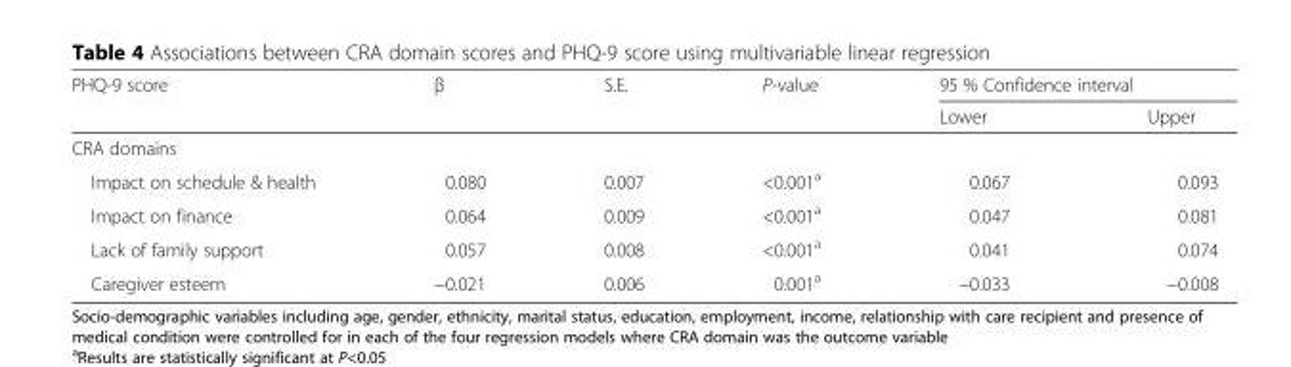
<table><thead><tr><td rowspan="2">PHQ-9 score</td><td rowspan="2">β</td><td rowspan="2">S.E.</td><td rowspan="2">P-value</td><td colspan="2">95 % Confidence interval</td></tr><tr><td>Lower</td><td>Upper</td></tr></thead><tbody><tr><td colspan="6">CRA domains</td></tr><tr><td>Impact on schedule &amp; health</td><td>0.080</td><td>0.007</td><td>&lt;0.001<sup>a</sup></td><td>0.067</td><td>0.093</td></tr><tr><td>Impact on finance</td><td>0.064</td><td>0.009</td><td>&lt;0.001<sup>a</sup></td><td>0.047</td><td>0.081</td></tr><tr><td>Lack of family support</td><td>0.057</td><td>0.008</td><td>&lt;0.001<sup>a</sup></td><td>0.041</td><td>0.074</td></tr><tr><td>Caregiver esteem</td><td>−0.021</td><td>0.006</td><td>0.001<sup>a</sup></td><td>−0.033</td><td>−0.008</td></tr></tbody></table>